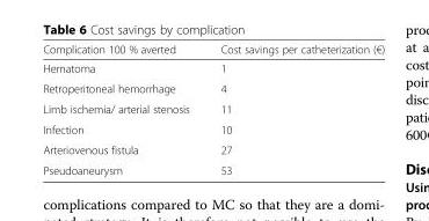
<table><thead><tr><td>Complication 100 % averted</td><td>Cost savings per catheterization (€)</td></tr></thead><tbody><tr><td>Hematoma</td><td>1</td></tr><tr><td>Retroperitoneal hemorrhage</td><td>4</td></tr><tr><td>Limb ischemia/ arterial stenosis</td><td>11</td></tr><tr><td>Infection</td><td>10</td></tr><tr><td>Arteriovenous fistula</td><td>27</td></tr><tr><td>Pseudoaneurysm</td><td>53</td></tr></tbody></table>